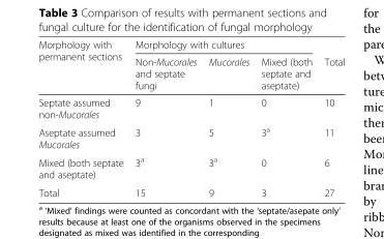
<table><thead><tr><td rowspan="2">Morphology with permanent sections</td><td colspan="3">Morphology with cultures</td><td rowspan="2">Total</td></tr><tr><td>Non-Mucorales and septate fungi</td><td>Mucorales</td><td>Mixed (both septate and aseptate)</td></tr></thead><tbody><tr><td>Septate assumed non-Mucorales</td><td>9</td><td>1</td><td>0</td><td>10</td></tr><tr><td>Aseptate assumed Mucorales</td><td>3</td><td>5</td><td>3<sup>a</sup></td><td>11</td></tr><tr><td>Mixed (both septate and aseptate)</td><td>3<sup>a</sup></td><td>3<sup>a</sup></td><td>0</td><td>6</td></tr><tr><td>Total</td><td>15</td><td>9</td><td>3</td><td>27</td></tr></tbody></table>